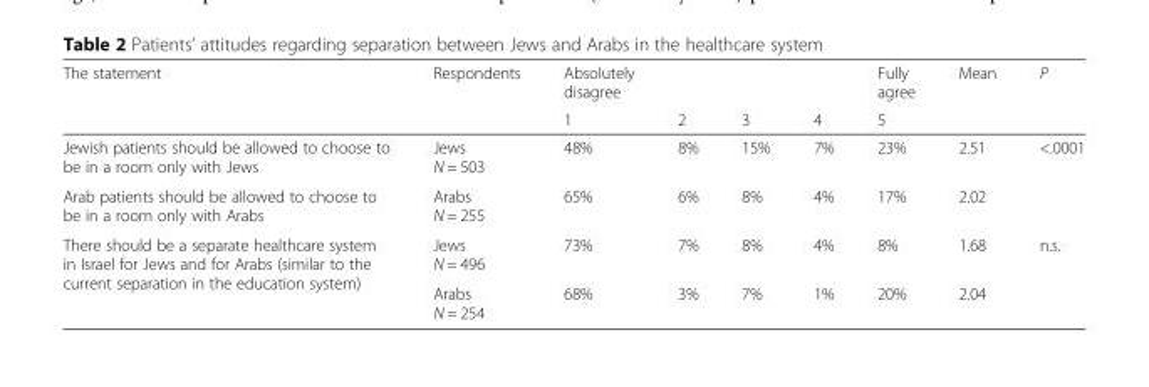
<table><thead><tr><td rowspan="2">The statement</td><td rowspan="2">Respondents</td><td rowspan="2">Absolutely disagree 1</td><td rowspan="2">2</td><td rowspan="2">3</td><td rowspan="2">4</td><td rowspan="2">Fully agree 5</td><td rowspan="2">Mean</td><td rowspan="2">P</td></tr><tr></tr></thead><tbody><tr><td>Jewish patients should be allowed to choose to be in a room only with Jews</td><td>Jews N = 503</td><td>48%</td><td>8%</td><td>15%</td><td>7%</td><td>23%</td><td>2.51</td><td rowspan="2">&lt;.0001</td></tr><tr><td>Arab patients should be allowed to choose to be in a room only with Arabs</td><td>Arabs N = 255</td><td>65%</td><td>6%</td><td>8%</td><td>4%</td><td>17%</td><td>2.02</td></tr><tr><td rowspan="2">There should be a separate healthcare system in Israel for Jews and for Arabs (similar to the current separation in the education system)</td><td>Jews N = 496</td><td>73%</td><td>7%</td><td>8%</td><td>4%</td><td>8%</td><td>1.68</td><td rowspan="2">n.s.</td></tr><tr><td>Arabs N = 254</td><td>68%</td><td>3%</td><td>7%</td><td>1%</td><td>20%</td><td>2.04</td></tr></tbody></table>